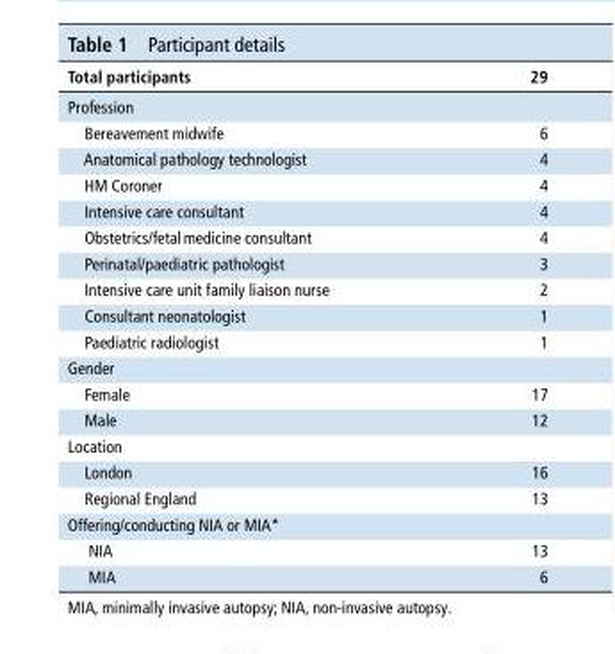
<table><thead><tr><td>Total participants</td><td>29</td></tr></thead><tbody><tr><td colspan="2">Profession</td></tr><tr><td>Bereavement midwife</td><td>6</td></tr><tr><td>Anatomical pathology technologist</td><td>4</td></tr><tr><td>HM Coroner</td><td>4</td></tr><tr><td>Intensive care consultant</td><td>4</td></tr><tr><td>Obstetrics/fetal medicine consultant</td><td>4</td></tr><tr><td>Perinatal/paediatric pathologist</td><td>3</td></tr><tr><td>Intensive care unit family liaison nurse</td><td>2</td></tr><tr><td>Consultant neonatologist</td><td>1</td></tr><tr><td>Paediatric radiologist</td><td>1</td></tr><tr><td colspan="2">Gender</td></tr><tr><td>Female</td><td>17</td></tr><tr><td>Male</td><td>12</td></tr><tr><td colspan="2">Location</td></tr><tr><td>London</td><td>16</td></tr><tr><td>Regional England</td><td>13</td></tr><tr><td colspan="2">Offering/conducting NIA or MIA*</td></tr><tr><td>NIA</td><td>13</td></tr><tr><td>MIA</td><td>6</td></tr></tbody></table>